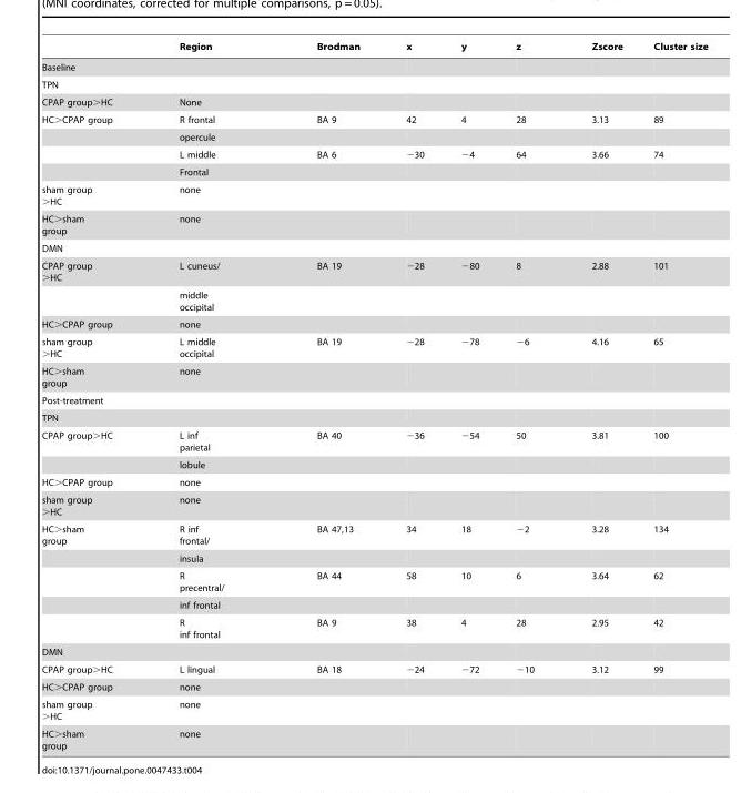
<table><thead><tr><td></td><td>Region</td><td>Brodman</td><td>x</td><td>y</td><td>z</td><td>Zscore</td><td>Cluster size</td></tr></thead><tbody><tr><td colspan="8">Baseline</td></tr><tr><td colspan="8">TPN</td></tr><tr><td>CPAP group&gt;HC</td><td>None</td><td></td><td></td><td></td><td></td><td></td><td></td></tr><tr><td rowspan="4">HC&gt;CPAP group</td><td>R frontal</td><td>BA 9</td><td>42</td><td>4</td><td>28</td><td>3.13</td><td>89</td></tr><tr><td>opercule</td><td></td><td></td><td></td><td></td><td></td><td></td></tr><tr><td>L middle</td><td>BA 6</td><td>−30</td><td>−4</td><td>64</td><td>3.66</td><td>74</td></tr><tr><td>Frontal</td><td></td><td></td><td></td><td></td><td></td><td></td></tr><tr><td>sham group &gt;HC</td><td>none</td><td></td><td></td><td></td><td></td><td></td><td></td></tr><tr><td>HC&gt;sham group</td><td>none</td><td></td><td></td><td></td><td></td><td></td><td></td></tr><tr><td colspan="8">DMN</td></tr><tr><td rowspan="2">CPAP group &gt;HC</td><td>L cuneus/</td><td>BA 19</td><td>−28</td><td>−80</td><td>8</td><td>2.88</td><td>101</td></tr><tr><td>middle occipital</td><td></td><td></td><td></td><td></td><td></td><td></td></tr><tr><td>HC&gt;CPAP group</td><td>none</td><td></td><td></td><td></td><td></td><td></td><td></td></tr><tr><td>sham group &gt;HC</td><td>L middle occipital</td><td>BA 19</td><td>−28</td><td>−78</td><td>−6</td><td>4.16</td><td>65</td></tr><tr><td>HC&gt;sham group</td><td>none</td><td></td><td></td><td></td><td></td><td></td><td></td></tr><tr><td colspan="8">Post-treatment</td></tr><tr><td colspan="8">TPN</td></tr><tr><td rowspan="2">CPAP group&gt;HC</td><td>L inf parietal</td><td>BA 40</td><td>−36</td><td>−54</td><td>50</td><td>3.81</td><td>100</td></tr><tr><td>lobule</td><td></td><td></td><td></td><td></td><td></td><td></td></tr><tr><td>HC&gt;CPAP group</td><td>none</td><td></td><td></td><td></td><td></td><td></td><td></td></tr><tr><td>sham group &gt;HC</td><td>none</td><td></td><td></td><td></td><td></td><td></td><td></td></tr><tr><td rowspan="5">HC&gt;sham group</td><td>R inf frontal/</td><td>BA 47,13</td><td>34</td><td>18</td><td>−2</td><td>3.28</td><td>134</td></tr><tr><td>insula</td><td></td><td></td><td></td><td></td><td></td><td></td></tr><tr><td>R precentral/</td><td>BA 44</td><td>58</td><td>10</td><td>6</td><td>3.64</td><td>62</td></tr><tr><td>inf frontal</td><td></td><td></td><td></td><td></td><td></td><td></td></tr><tr><td>R inf frontal</td><td>BA 9</td><td>38</td><td>4</td><td>28</td><td>2.95</td><td>42</td></tr><tr><td colspan="8">DMN</td></tr><tr><td>CPAP group&gt;HC</td><td>L lingual</td><td>BA 18</td><td>−24</td><td>−72</td><td>−10</td><td>3.12</td><td>99</td></tr><tr><td>HC&gt;CPAP group</td><td>none</td><td></td><td></td><td></td><td></td><td></td><td></td></tr><tr><td>sham group &gt;HC</td><td>none</td><td></td><td></td><td></td><td></td><td></td><td></td></tr><tr><td>HC&gt;sham group</td><td>none</td><td></td><td></td><td></td><td></td><td></td><td></td></tr></tbody></table>